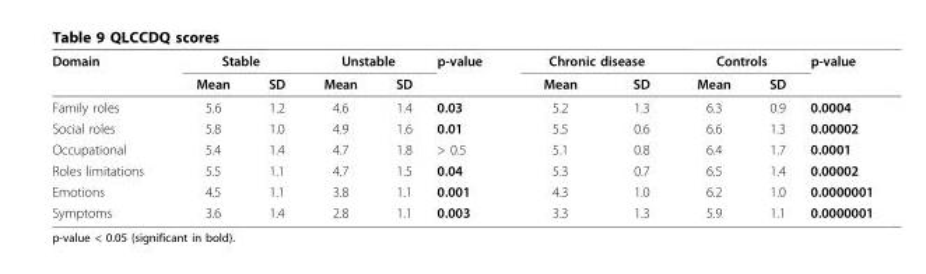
<table><thead><tr><td rowspan="2">Domain</td><td colspan="2">Stable</td><td colspan="2">Unstable</td><td rowspan="2">p-value</td><td colspan="2">Chronic disease</td><td colspan="2">Controls</td><td rowspan="2">p-value</td></tr><tr><td>Mean</td><td>SD</td><td>Mean</td><td>SD</td><td>Mean</td><td>SD</td><td>Mean</td><td>SD</td></tr></thead><tbody><tr><td>Family roles</td><td>5.6</td><td>1.2</td><td>4.6</td><td>1.4</td><td>0.03</td><td>5.2</td><td>1.3</td><td>6.3</td><td>0.9</td><td>0.0004</td></tr><tr><td>Social roles</td><td>5.8</td><td>1.0</td><td>4.9</td><td>1.6</td><td>0.01</td><td>5.5</td><td>0.6</td><td>6.6</td><td>1.3</td><td>0.00002</td></tr><tr><td>Occupational</td><td>5.4</td><td>1.4</td><td>4.7</td><td>1.8</td><td>&gt; 0.5</td><td>5.1</td><td>0.8</td><td>6.4</td><td>1.7</td><td>0.0001</td></tr><tr><td>Roles limitations</td><td>5.5</td><td>1.1</td><td>4.7</td><td>1.5</td><td>0.04</td><td>5.3</td><td>0.7</td><td>6.5</td><td>1.4</td><td>0.00002</td></tr><tr><td>Emotions</td><td>4.5</td><td>1.1</td><td>3.8</td><td>1.1</td><td>0.001</td><td>4.3</td><td>1.0</td><td>6.2</td><td>1.0</td><td>0.0000001</td></tr><tr><td>Symptoms</td><td>3.6</td><td>1.4</td><td>2.8</td><td>1.1</td><td>0.003</td><td>3.3</td><td>1.3</td><td>5.9</td><td>1.1</td><td>0.0000001</td></tr></tbody></table>